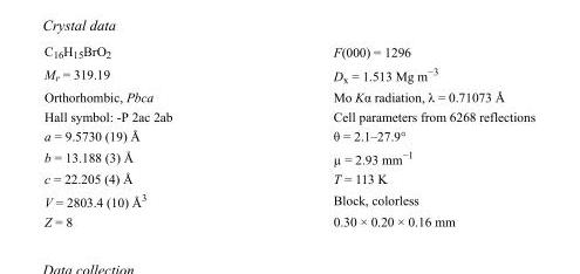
<table><tbody><tr><td>C<sub>16</sub>H<sub>15</sub>BrO<sub>2</sub></td><td>F(000) = 1296</td></tr><tr><td>M<sub>r</sub> = 319.19</td><td>D<sub>x</sub> = 1.513 Mg m<sup>−3</sup></td></tr><tr><td>Orthorhombic, Pbca</td><td>Mo Kα radiation, λ = 0.71073 Å</td></tr><tr><td>Hall symbol: -P 2ac 2ab</td><td>Cell parameters from 6268 reflections</td></tr><tr><td>a = 9.5730 (19) Å</td><td>θ = 2.1–27.9°</td></tr><tr><td>b = 13.188 (3) Å</td><td>µ = 2.93 mm<sup>−1</sup></td></tr><tr><td>c = 22.205 (4) Å</td><td>T = 113 K</td></tr><tr><td>V = 2803.4 (10) Å<sup>3</sup></td><td>Block, colorless</td></tr><tr><td>Z = 8</td><td>0.30 × 0.20 × 0.16 mm</td></tr></tbody></table>